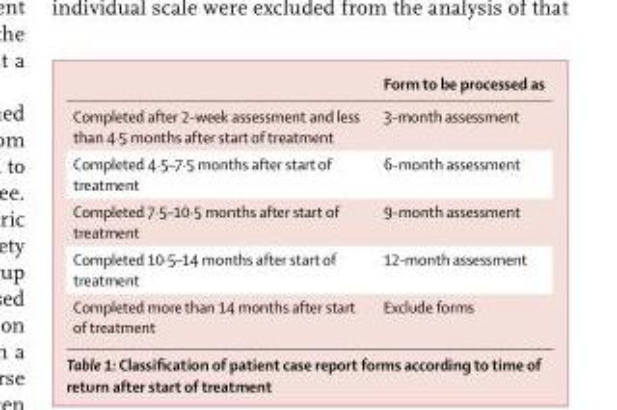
<table><thead><tr><td></td><td>Form to be processed as</td></tr></thead><tbody><tr><td>Completed after 2-week assessment and less than 4·5 months after start of treatment</td><td>3-month assessment</td></tr><tr><td>Completed 4·5–7·5 months after start of treatment</td><td>6-month assessment</td></tr><tr><td>Completed 7·5–10·5 months after start of treatment</td><td>9-month assessment</td></tr><tr><td>Completed 10·5–14 months after start of treatment</td><td>12-month assessment</td></tr><tr><td>Completed more than 14 months after start of treatment</td><td>Exclude forms</td></tr></tbody></table>